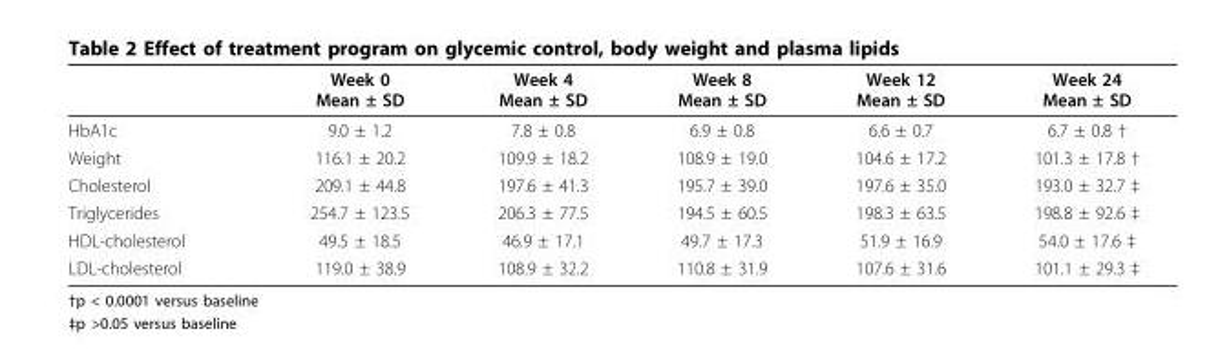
<table><thead><tr><td></td><td>Week 0 Mean ± SD</td><td>Week 4 Mean ± SD</td><td>Week 8 Mean ± SD</td><td>Week 12 Mean ± SD</td><td>Week 24 Mean ± SD</td></tr></thead><tbody><tr><td>HbA1c</td><td>9.0 ± 1.2</td><td>7.8 ± 0.8</td><td>6.9 ± 0.8</td><td>6.6 ± 0.7</td><td>6.7 ± 0.8 †</td></tr><tr><td>Weight</td><td>116.1 ± 20.2</td><td>109.9 ± 18.2</td><td>108.9 ± 19.0</td><td>104.6 ± 17.2</td><td>101.3 ± 17.8 †</td></tr><tr><td>Cholesterol</td><td>209.1 ± 44.8</td><td>197.6 ± 41.3</td><td>195.7 ± 39.0</td><td>197.6 ± 35.0</td><td>193.0 ± 32.7 ‡</td></tr><tr><td>Triglycerides</td><td>254.7 ± 123.5</td><td>206.3 ± 77.5</td><td>194.5 ± 60.5</td><td>198.3 ± 63.5</td><td>198.8 ± 92.6 ‡</td></tr><tr><td>HDL-cholesterol</td><td>49.5 ± 18.5</td><td>46.9 ± 17.1</td><td>49.7 ± 17.3</td><td>51.9 ± 16.9</td><td>54.0 ± 17.6 ‡</td></tr><tr><td>LDL-cholesterol</td><td>119.0 ± 38.9</td><td>108.9 ± 32.2</td><td>110.8 ± 31.9</td><td>107.6 ± 31.6</td><td>101.1 ± 29.3 ‡</td></tr></tbody></table>